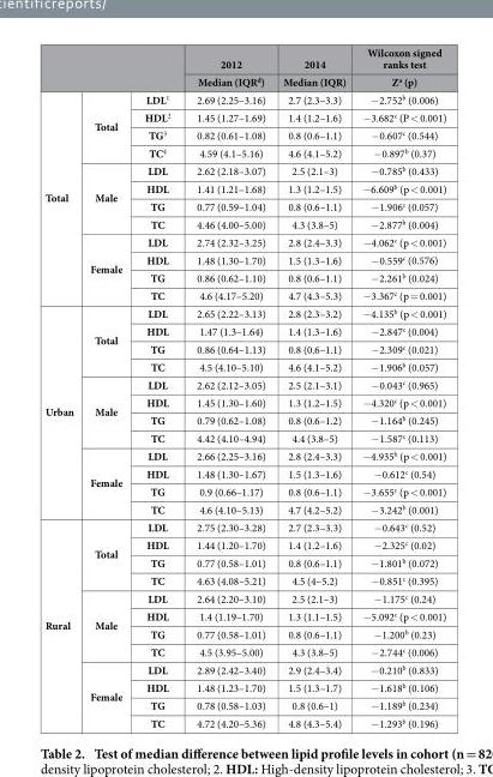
<table><thead><tr><td rowspan="2"></td><td rowspan="2"></td><td rowspan="2"></td><td rowspan="2">2012 Median (IQR<sup>d</sup>)</td><td rowspan="2">2014 Median (IQR)</td><td rowspan="2">Wilcoxon signed ranks test Z<sup>a</sup> (p)</td></tr><tr></tr></thead><tbody><tr><td rowspan="12">Total</td><td rowspan="4">Total</td><td>LDL<sup>1</sup></td><td>2.69 (2.25–3.16)</td><td>2.7 (2.3–3.3)</td><td>− 2.752<sup>b</sup> (0.006)</td></tr><tr><td>HDL<sup>2</sup></td><td>1.45 (1.27–1.69)</td><td>1.4 (1.2–1.6)</td><td>− 3.682<sup>c</sup> (P &lt; 0.001)</td></tr><tr><td>TG<sup>3</sup></td><td>0.82 (0.61–1.08)</td><td>0.8 (0.6–1.1)</td><td>− 0.607<sup>c</sup> (0.544)</td></tr><tr><td>TC<sup>4</sup></td><td>4.59 (4.1–5.16)</td><td>4.6 (4.1–5.2)</td><td>− 0.897<sup>b</sup> (0.37)</td></tr><tr><td rowspan="4">Male</td><td>LDL</td><td>2.62 (2.18–3.07)</td><td>2.5 (2.1–3)</td><td>− 0.785<sup>b</sup> (0.433)</td></tr><tr><td>HDL</td><td>1.41 (1.21–1.68)</td><td>1.3 (1.2–1.5)</td><td>− 6.609<sup>b</sup> (p &lt; 0.001)</td></tr><tr><td>TG</td><td>0.77 (0.59–1.04)</td><td>0.8 (0.6–1.1)</td><td>− 1.906<sup>c</sup> (0.057)</td></tr><tr><td>TC</td><td>4.46 (4.00–5.00)</td><td>4.3 (3.8–5)</td><td>− 2.877<sup>b</sup> (0.004)</td></tr><tr><td rowspan="4">Female</td><td>LDL</td><td>2.74 (2.32–3.25)</td><td>2.8 (2.4–3.3)</td><td>− 4.062<sup>c</sup> (p &lt; 0.001)</td></tr><tr><td>HDL</td><td>1.48 (1.30–1.70)</td><td>1.5 (1.3–1.6)</td><td>− 0.559<sup>c</sup> (0.576)</td></tr><tr><td>TG</td><td>0.86 (0.62–1.10)</td><td>0.8 (0.6–1.1)</td><td>− 2.261<sup>b</sup> (0.024)</td></tr><tr><td>TC</td><td>4.6 (4.17–5.20)</td><td>4.7 (4.3–5.3)</td><td>− 3.367<sup>c</sup> (p = 0.001)</td></tr><tr><td rowspan="12">Urban</td><td rowspan="4">Total</td><td>LDL</td><td>2.65 (2.22–3.13)</td><td>2.8 (2.3–3.2)</td><td>− 4.135<sup>b</sup> (p &lt; 0.001)</td></tr><tr><td>HDL</td><td>1.47 (1.3–1.64)</td><td>1.4 (1.3–1.6)</td><td>− 2.847<sup>c</sup> (0.004)</td></tr><tr><td>TG</td><td>0.86 (0.64–1.13)</td><td>0.8 (0.6–1.1)</td><td>− 2.309<sup>c</sup> (0.021)</td></tr><tr><td>TC</td><td>4.5 (4.10–5.10)</td><td>4.6 (4.1–5.2)</td><td>− 1.906<sup>b</sup> (0.057)</td></tr><tr><td rowspan="4">Male</td><td>LDL</td><td>2.62 (2.12–3.05)</td><td>2.5 (2.1–3.1)</td><td>− 0.043<sup>c</sup> (0.965)</td></tr><tr><td>HDL</td><td>1.45 (1.30–1.60)</td><td>1.3 (1.2–1.5)</td><td>− 4.320<sup>c</sup> (p &lt; 0.001)</td></tr><tr><td>TG</td><td>0.79 (0.62–1.08)</td><td>0.8 (0.6–1.2)</td><td>− 1.164<sup>b</sup> (0.245)</td></tr><tr><td>TC</td><td>4.42 (4.10–4.94)</td><td>4.4 (3.8–5)</td><td>− 1.587<sup>c</sup> (0.113)</td></tr><tr><td rowspan="4">Female</td><td>LDL</td><td>2.66 (2.25–3.16)</td><td>2.8 (2.4–3.3)</td><td>− 4.935<sup>b</sup> (p &lt; 0.001)</td></tr><tr><td>HDL</td><td>1.48 (1.30–1.67)</td><td>1.5 (1.3–1.6)</td><td>− 0.612<sup>c</sup> (0.54)</td></tr><tr><td>TG</td><td>0.9 (0.66–1.17)</td><td>0.8 (0.6–1.1)</td><td>− 3.655<sup>c</sup> (p &lt; 0.001)</td></tr><tr><td>TC</td><td>4.6 (4.10–5.13)</td><td>4.7 (4.2–5.2)</td><td>− 3.242<sup>b</sup> (0.001)</td></tr><tr><td rowspan="12">Rural</td><td rowspan="4">Total</td><td>LDL</td><td>2.75 (2.30–3.28)</td><td>2.7 (2.3–3.3)</td><td>− 0.643<sup>c</sup> (0.52)</td></tr><tr><td>HDL</td><td>1.44 (1.20–1.70)</td><td>1.4 (1.2–1.6)</td><td>− 2.325<sup>c</sup> (0.02)</td></tr><tr><td>TG</td><td>0.77 (0.58–1.01)</td><td>0.8 (0.6–1.1)</td><td>− 1.801<sup>b</sup> (0.072)</td></tr><tr><td>TC</td><td>4.63 (4.08–5.21)</td><td>4.5 (4–5.2)</td><td>− 0.851<sup>c</sup> (0.395)</td></tr><tr><td rowspan="4">Male</td><td>LDL</td><td>2.64 (2.20–3.10)</td><td>2.5 (2.1–3)</td><td>− 1.175<sup>c</sup> (0.24)</td></tr><tr><td>HDL</td><td>1.4 (1.19–1.70)</td><td>1.3 (1.1–1.5)</td><td>− 5.092<sup>c</sup> (p &lt; 0.001)</td></tr><tr><td>TG</td><td>0.77 (0.58–1.01)</td><td>0.8 (0.6–1.1)</td><td>− 1.200<sup>b</sup> (0.23)</td></tr><tr><td>TC</td><td>4.5 (3.95–5.00)</td><td>4.3 (3.8–5)</td><td>− 2.744<sup>c</sup> (0.006)</td></tr><tr><td rowspan="4">Female</td><td>LDL</td><td>2.89 (2.42–3.40)</td><td>2.9 (2.4–3.4)</td><td>− 0.210<sup>b</sup> (0.833)</td></tr><tr><td>HDL</td><td>1.48 (1.23–1.70)</td><td>1.5 (1.3–1.7)</td><td>− 1.618<sup>b</sup> (0.106)</td></tr><tr><td>TG</td><td>0.78 (0.58–1.03)</td><td>0.8 (0.6–1)</td><td>− 1.189<sup>b</sup> (0.234)</td></tr><tr><td>TC</td><td>4.72 (4.20–5.36)</td><td>4.8 (4.3–5.4)</td><td>− 1.293<sup>b</sup> (0.196)</td></tr></tbody></table>